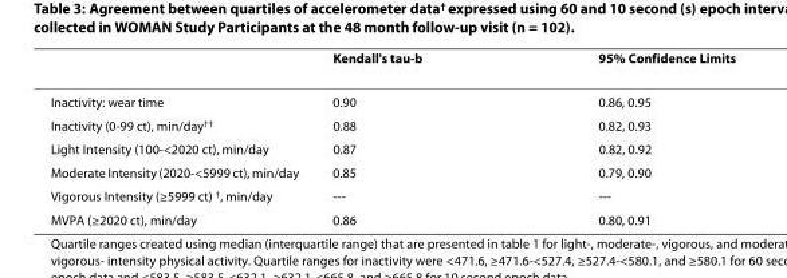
<table><thead><tr><td></td><td>Kendall&#x27;s tau-b</td><td>95% Confidence Limits</td></tr></thead><tbody><tr><td>Inactivity: wear time</td><td>0.90</td><td>0.86, 0.95</td></tr><tr><td>Inactivity (0-99 ct), min/day<sup>††</sup></td><td>0.88</td><td>0.82, 0.93</td></tr><tr><td>Light Intensity (100-&lt;2020 ct), min/day</td><td>0.87</td><td>0.82, 0.92</td></tr><tr><td>Moderate Intensity (2020-&lt;5999 ct), min/day</td><td>0.85</td><td>0.79, 0.90</td></tr><tr><td>Vigorous Intensity (≥5999 ct) <sup>†</sup>, min/day</td><td>---</td><td>---</td></tr><tr><td>MVPA (≥2020 ct), min/day</td><td>0.86</td><td>0.80, 0.91</td></tr></tbody></table>